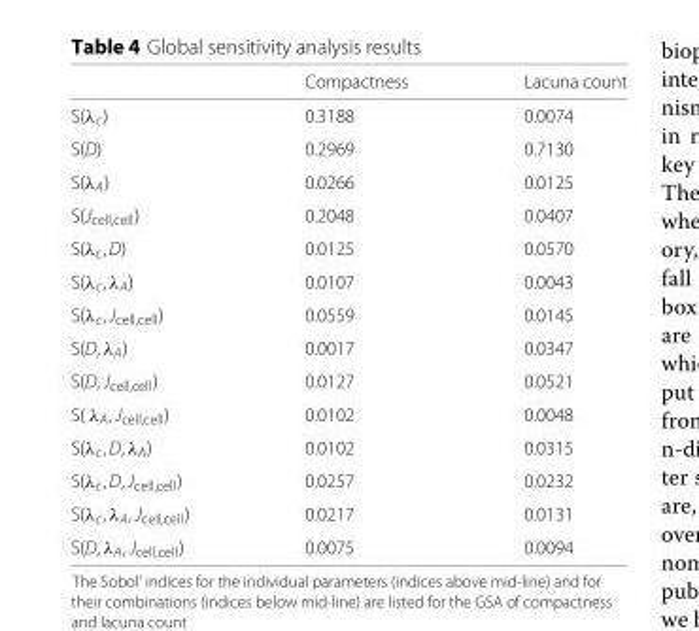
<table><thead><tr><td></td><td>Compactness</td><td>Lacuna count</td></tr></thead><tbody><tr><td>S(λ<sub>c</sub>)</td><td>0.3188</td><td>0.0074</td></tr><tr><td>S(D)</td><td>0.2969</td><td>0.7130</td></tr><tr><td>S(λ<sub>A</sub>)</td><td>0.0266</td><td>0.0125</td></tr><tr><td>S(J<sub>cell,cell</sub>)</td><td>0.2048</td><td>0.0407</td></tr><tr><td>S(λ<sub>c</sub>, D)</td><td>0.0125</td><td>0.0570</td></tr><tr><td>S(λ<sub>c</sub>, λ<sub>A</sub>)</td><td>0.0107</td><td>0.0043</td></tr><tr><td>S(λ<sub>c</sub>, J<sub>cell,cell</sub>)</td><td>0.0559</td><td>0.0145</td></tr><tr><td>S(D, λ<sub>A</sub>)</td><td>0.0017</td><td>0.0347</td></tr><tr><td>S(D, J<sub>cell,cell</sub>)</td><td>0.0127</td><td>0.0521</td></tr><tr><td>S( λ<sub>A</sub>, J<sub>cell,cell</sub>)</td><td>0.0102</td><td>0.0048</td></tr><tr><td>S(λ<sub>c</sub>, D, λ<sub>A</sub>)</td><td>0.0102</td><td>0.0315</td></tr><tr><td>S(λ<sub>c</sub>, D, J<sub>cell,cell</sub>)</td><td>0.0257</td><td>0.0232</td></tr><tr><td>S(λ<sub>c</sub>, λ<sub>A</sub>, J<sub>cell,cell</sub>)</td><td>0.0217</td><td>0.0131</td></tr><tr><td>S(D, λ<sub>A</sub>, J<sub>cell,cell</sub>)</td><td>0.0075</td><td>0.0094</td></tr></tbody></table>